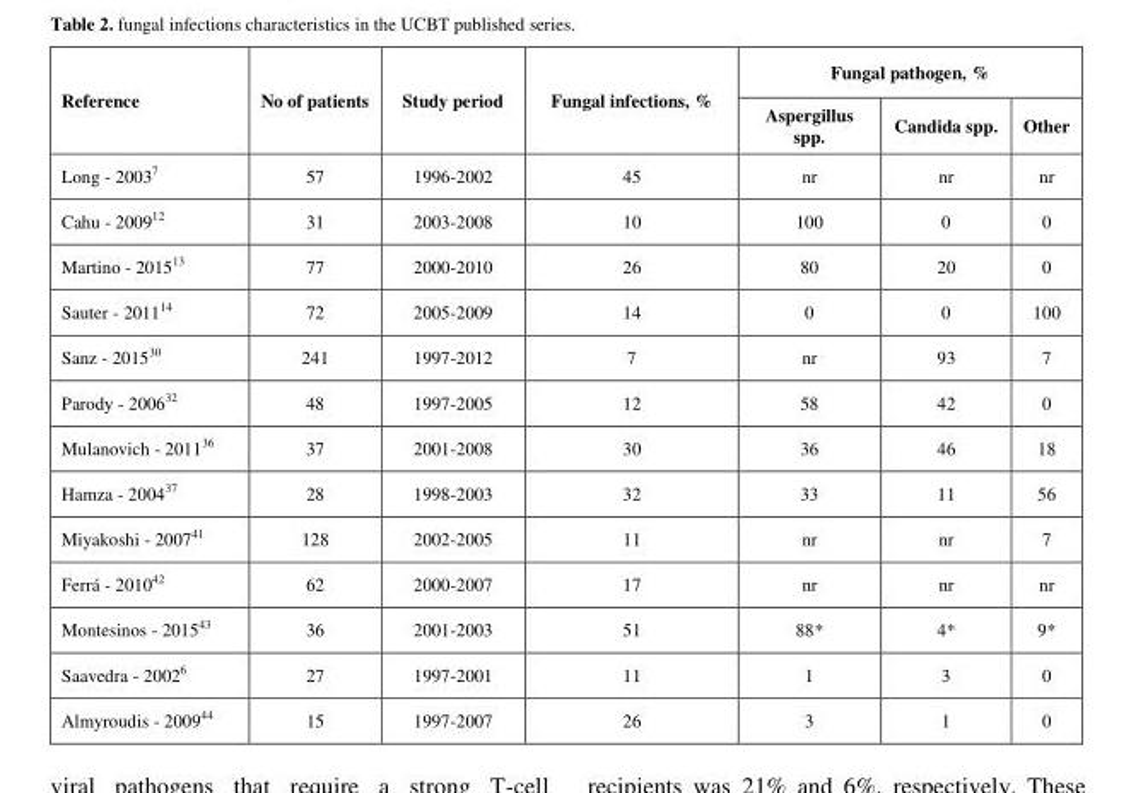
<table><thead><tr><td rowspan="2">Reference</td><td rowspan="2">No of patients</td><td rowspan="2">Study period</td><td rowspan="2">Fungal infections, %</td><td colspan="3">Fungal pathogen, %</td></tr><tr><td>Aspergillus spp.</td><td>Candida spp.</td><td>Other</td></tr></thead><tbody><tr><td>Long - 2003<sup>7</sup></td><td>57</td><td>1996-2002</td><td>45</td><td>nr</td><td>nr</td><td>nr</td></tr><tr><td>Cahu - 2009<sup>12</sup></td><td>31</td><td>2003-2008</td><td>10</td><td>100</td><td>0</td><td>0</td></tr><tr><td>Martino - 2015<sup>13</sup></td><td>77</td><td>2000-2010</td><td>26</td><td>80</td><td>20</td><td>0</td></tr><tr><td>Sauter - 2011<sup>14</sup></td><td>72</td><td>2005-2009</td><td>14</td><td>0</td><td>0</td><td>100</td></tr><tr><td>Sanz - 2015<sup>30</sup></td><td>241</td><td>1997-2012</td><td>7</td><td>nr</td><td>93</td><td>7</td></tr><tr><td>Parody - 2006<sup>32</sup></td><td>48</td><td>1997-2005</td><td>12</td><td>58</td><td>42</td><td>0</td></tr><tr><td>Mulanovich - 2011<sup>36</sup></td><td>37</td><td>2001-2008</td><td>30</td><td>36</td><td>46</td><td>18</td></tr><tr><td>Hamza - 2004<sup>37</sup></td><td>28</td><td>1998-2003</td><td>32</td><td>33</td><td>11</td><td>56</td></tr><tr><td>Miyakoshi - 2007<sup>41</sup></td><td>128</td><td>2002-2005</td><td>11</td><td>nr</td><td>nr</td><td>7</td></tr><tr><td>Ferrá - 2010<sup>42</sup></td><td>62</td><td>2000-2007</td><td>17</td><td>nr</td><td>nr</td><td>nr</td></tr><tr><td>Montesinos - 2015<sup>43</sup></td><td>36</td><td>2001-2003</td><td>51</td><td>88*</td><td>4*</td><td>9*</td></tr><tr><td>Saavedra - 2002<sup>6</sup></td><td>27</td><td>1997-2001</td><td>11</td><td>1</td><td>3</td><td>0</td></tr><tr><td>Almyroudis - 2009<sup>44</sup></td><td>15</td><td>1997-2007</td><td>26</td><td>3</td><td>1</td><td>0</td></tr></tbody></table>